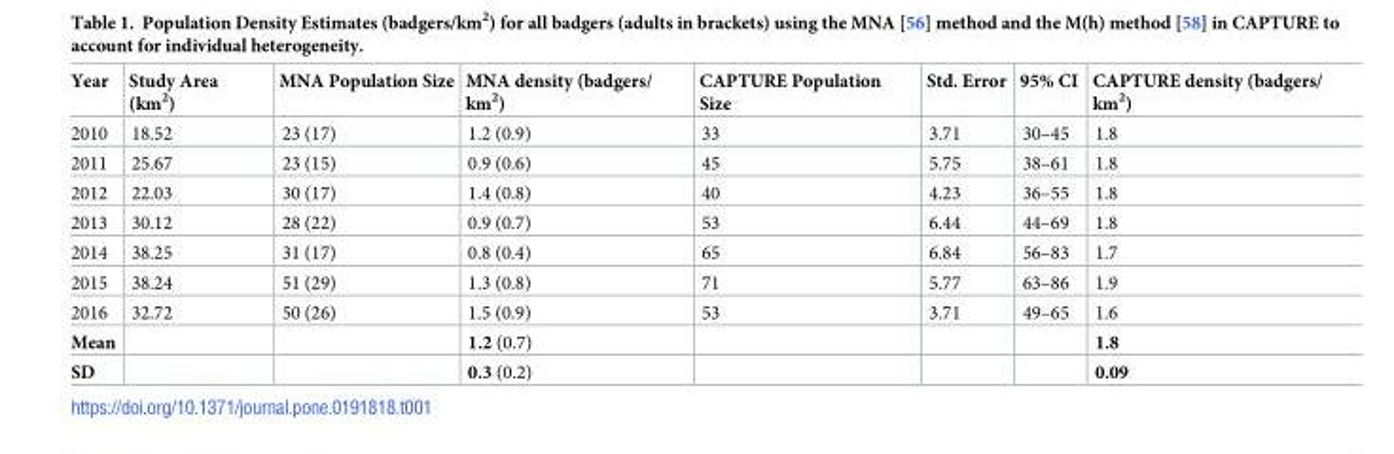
<table><thead><tr><td>Year</td><td>Study Area (km<sup>2</sup>)</td><td>MNA Population Size</td><td>MNA density (badgers/ km<sup>2</sup>)</td><td>CAPTURE Population Size</td><td>Std. Error</td><td>95% CI</td><td>CAPTURE density (badgers/ km<sup>2</sup>)</td></tr></thead><tbody><tr><td>2010</td><td>18.52</td><td>23 (17)</td><td>1.2 (0.9)</td><td>33</td><td>3.71</td><td>30–45</td><td>1.8</td></tr><tr><td>2011</td><td>25.67</td><td>23 (15)</td><td>0.9 (0.6)</td><td>45</td><td>5.75</td><td>38–61</td><td>1.8</td></tr><tr><td>2012</td><td>22.03</td><td>30 (17)</td><td>1.4 (0.8)</td><td>40</td><td>4.23</td><td>36–55</td><td>1.8</td></tr><tr><td>2013</td><td>30.12</td><td>28 (22)</td><td>0.9 (0.7)</td><td>53</td><td>6.44</td><td>44–69</td><td>1.8</td></tr><tr><td>2014</td><td>38.25</td><td>31 (17)</td><td>0.8 (0.4)</td><td>65</td><td>6.84</td><td>56–83</td><td>1.7</td></tr><tr><td>2015</td><td>38.24</td><td>51 (29)</td><td>1.3 (0.8)</td><td>71</td><td>5.77</td><td>63–86</td><td>1.9</td></tr><tr><td>2016</td><td>32.72</td><td>50 (26)</td><td>1.5 (0.9)</td><td>53</td><td>3.71</td><td>49–65</td><td>1.6</td></tr><tr><td>Mean</td><td></td><td></td><td>1.2 (0.7)</td><td></td><td></td><td></td><td>1.8</td></tr><tr><td>SD</td><td></td><td></td><td>0.3 (0.2)</td><td></td><td></td><td></td><td>0.09</td></tr></tbody></table>